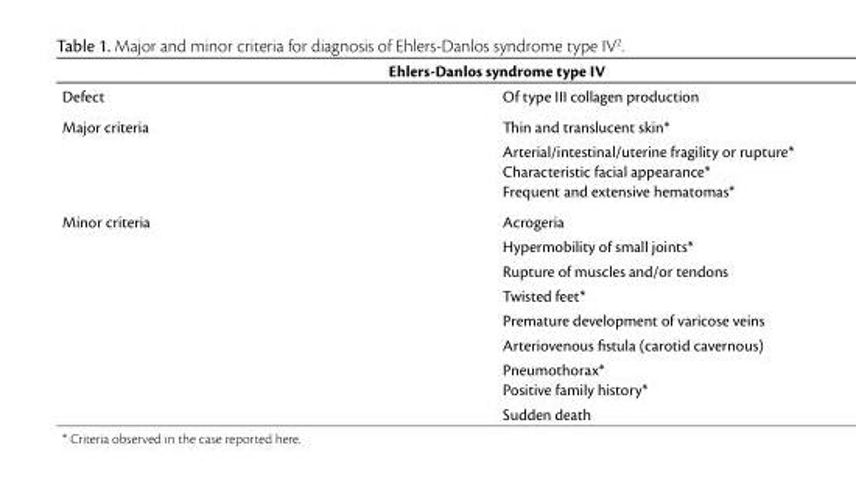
<table><thead><tr><td colspan="2">Ehlers-Danlos syndrome type IV</td></tr><tr><td>Defect</td><td>Of type III collagen production</td></tr></thead><tbody><tr><td rowspan="2">Major criteria</td><td>Thin and translucent skin*</td></tr><tr><td>Arterial/intestinal/uterine fragility or rupture* Characteristic facial appearance* Frequent and extensive hematomas*</td></tr><tr><td rowspan="8">Minor criteria</td><td>Acrogeria</td></tr><tr><td>Hypermobility of small joints*</td></tr><tr><td>Rupture of muscles and/or tendons</td></tr><tr><td>Twisted feet*</td></tr><tr><td>Premature development of varicose veins</td></tr><tr><td>Arteriovenous fistula (carotid cavernous)</td></tr><tr><td>Pneumothorax* Positive family history*</td></tr><tr><td>Sudden death</td></tr></tbody></table>